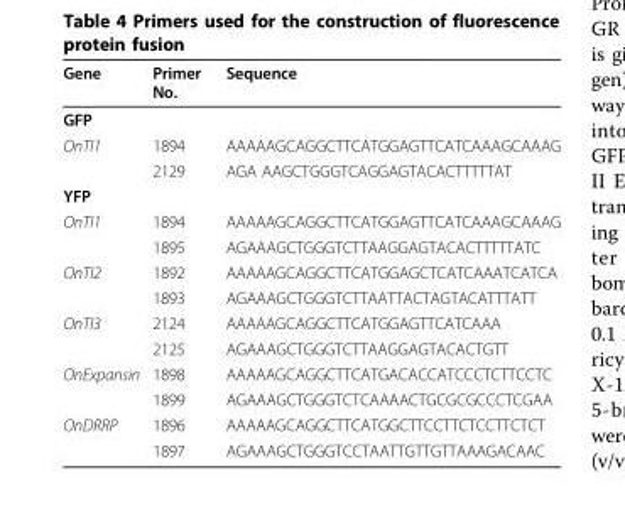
<table><thead><tr><td>Gene</td><td>Primer No.</td><td>Sequence</td></tr></thead><tbody><tr><td colspan="3">GFP</td></tr><tr><td rowspan="2">OnTI1</td><td>1894</td><td>AAAAAGCAGGCTTCATGGAGTTCATCAAAGCAAAG</td></tr><tr><td>2129</td><td>AGA AAGCTGGGTCAGGAGTACACTTTTTAT</td></tr><tr><td colspan="3">YFP</td></tr><tr><td rowspan="2">OnTI1</td><td>1894</td><td>AAAAAGCAGGCTTCATGGAGTTCATCAAAGCAAAG</td></tr><tr><td>1895</td><td>AGAAAGCTGGGTCTTAAGGAGTACACTTTTTATC</td></tr><tr><td rowspan="2">OnTI2</td><td>1892</td><td>AAAAAGCAGGCTTCATGGAGCTCATCAAATCATCA</td></tr><tr><td>1893</td><td>AGAAAGCTGGGTCTTAATTACTAGTACATTTATT</td></tr><tr><td rowspan="2">OnTI3</td><td>2124</td><td>AAAAAGCAGGCTTCATGGAGTTCATCAAA</td></tr><tr><td>2125</td><td>AGAAAGCTGGGTCTTAAGGAGTACACTGTT</td></tr><tr><td rowspan="2">OnExpansin</td><td>1898</td><td>AAAAAGCAGGCTTCATGACACCATCCCTCTTCCTC</td></tr><tr><td>1899</td><td>AGAAAGCTGGGTCTCAAAACTGCGCGCCCTCGAA</td></tr><tr><td rowspan="2">OnDRRP</td><td>1896</td><td>AAAAAGCAGGCTTCATGGCTTCCTTCTCCTTCTCT</td></tr><tr><td>1897</td><td>AGAAAGCTGGGTCCTAATTGTTGTTAAAGACAAC</td></tr></tbody></table>